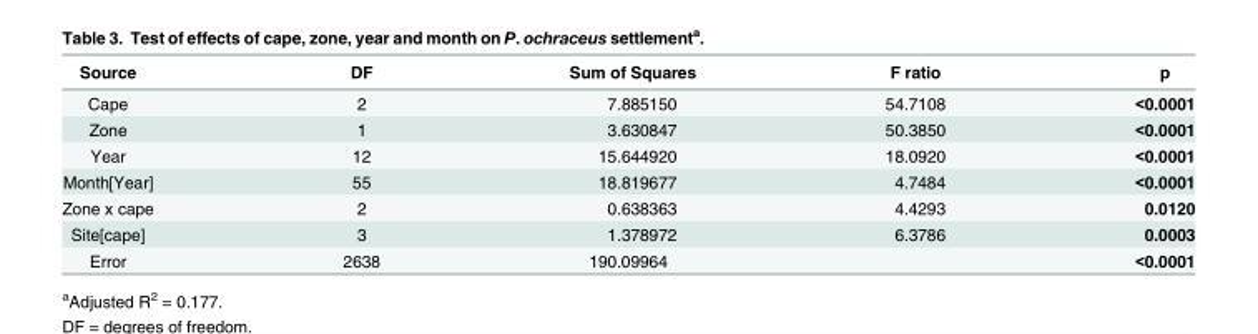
<table><thead><tr><td>Source</td><td>DF</td><td>Sum of Squares</td><td>F ratio</td><td>p</td></tr></thead><tbody><tr><td>Cape</td><td>2</td><td>7.885150</td><td>54.7108</td><td>&lt;0.0001</td></tr><tr><td>Zone</td><td>1</td><td>3.630847</td><td>50.3850</td><td>&lt;0.0001</td></tr><tr><td>Year</td><td>12</td><td>15.644920</td><td>18.0920</td><td>&lt;0.0001</td></tr><tr><td>Month[Year]</td><td>55</td><td>18.819677</td><td>4.7484</td><td>&lt;0.0001</td></tr><tr><td>Zone x cape</td><td>2</td><td>0.638363</td><td>4.4293</td><td>0.0120</td></tr><tr><td>Site[cape]</td><td>3</td><td>1.378972</td><td>6.3786</td><td>0.0003</td></tr><tr><td>Error</td><td>2638</td><td>190.09964</td><td></td><td>&lt;0.0001</td></tr></tbody></table>